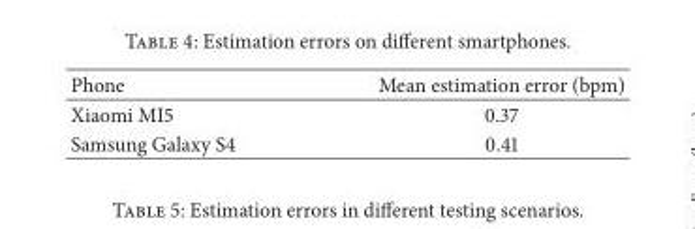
<table><thead><tr><td>Phone</td><td>Mean estimation error (bpm)</td></tr></thead><tbody><tr><td>Xiaomi MI5</td><td>0.37</td></tr><tr><td>Samsung Galaxy S4</td><td>0.41</td></tr></tbody></table>